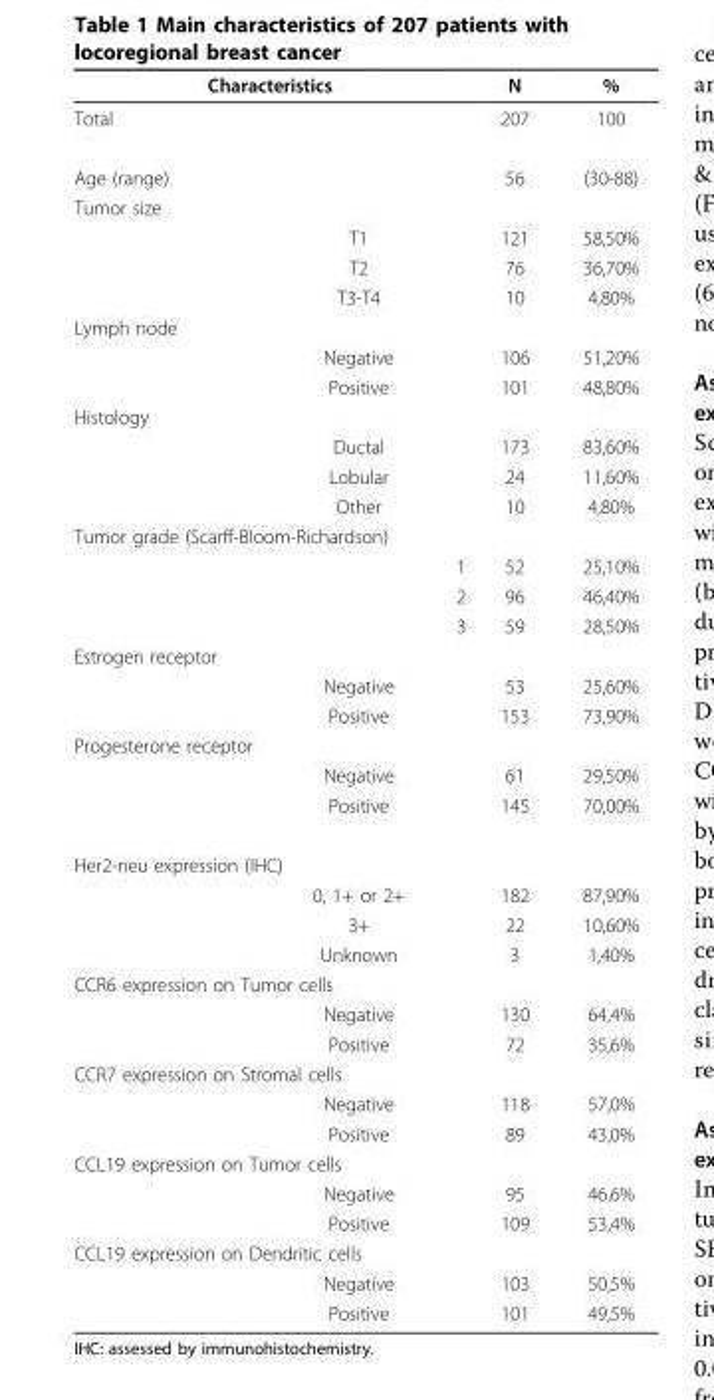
<table><thead><tr><td colspan="2">Characteristics</td><td rowspan="2">N 207</td><td rowspan="2">% 100</td></tr><tr><td>Total</td><td></td></tr></thead><tbody><tr><td colspan="2">Age (range)</td><td>56</td><td>(30-88)</td></tr><tr><td colspan="4">Tumor size</td></tr><tr><td></td><td>T1</td><td>121</td><td>58,50%</td></tr><tr><td></td><td>T2</td><td>76</td><td>36,70%</td></tr><tr><td></td><td>T3-T4</td><td>10</td><td>4,80%</td></tr><tr><td colspan="4">Lymph node</td></tr><tr><td></td><td>Negative</td><td>106</td><td>51,20%</td></tr><tr><td></td><td>Positive</td><td>101</td><td>48,80%</td></tr><tr><td colspan="4">Histology</td></tr><tr><td></td><td>Ductal</td><td>173</td><td>83,60%</td></tr><tr><td></td><td>Lobular</td><td>24</td><td>11,60%</td></tr><tr><td></td><td>Other</td><td>10</td><td>4,80%</td></tr><tr><td colspan="4">Tumor grade (Scarff-Bloom-Richardson)</td></tr><tr><td></td><td>1</td><td>52</td><td>25,10%</td></tr><tr><td></td><td>2</td><td>96</td><td>46,40%</td></tr><tr><td></td><td>3</td><td>59</td><td>28,50%</td></tr><tr><td colspan="4">Estrogen receptor</td></tr><tr><td></td><td>Negative</td><td>53</td><td>25,60%</td></tr><tr><td></td><td>Positive</td><td>153</td><td>73,90%</td></tr><tr><td colspan="4">Progesterone receptor</td></tr><tr><td></td><td>Negative</td><td>61</td><td>29,50%</td></tr><tr><td></td><td>Positive</td><td>145</td><td>70,00%</td></tr><tr><td colspan="4">Her2-neu expression (IHC)</td></tr><tr><td></td><td>0, 1+ or 2+</td><td>182</td><td>87,90%</td></tr><tr><td></td><td>3+</td><td>22</td><td>10,60%</td></tr><tr><td></td><td>Unknown</td><td>3</td><td>1,40%</td></tr><tr><td colspan="4">CCR6 expression on Tumor cells</td></tr><tr><td></td><td>Negative</td><td>130</td><td>64,4%</td></tr><tr><td></td><td>Positive</td><td>72</td><td>35,6%</td></tr><tr><td colspan="4">CCR7 expression on Stromal cells</td></tr><tr><td></td><td>Negative</td><td>118</td><td>57,0%</td></tr><tr><td></td><td>Positive</td><td>89</td><td>43,0%</td></tr><tr><td colspan="4">CCL19 expression on Tumor cells</td></tr><tr><td></td><td>Negative</td><td>95</td><td>46,6%</td></tr><tr><td></td><td>Positive</td><td>109</td><td>53,4%</td></tr><tr><td colspan="4">CCL19 expression on Dendritic cells</td></tr><tr><td></td><td>Negative</td><td>103</td><td>50,5%</td></tr><tr><td></td><td>Positive</td><td>101</td><td>49,5%</td></tr></tbody></table>